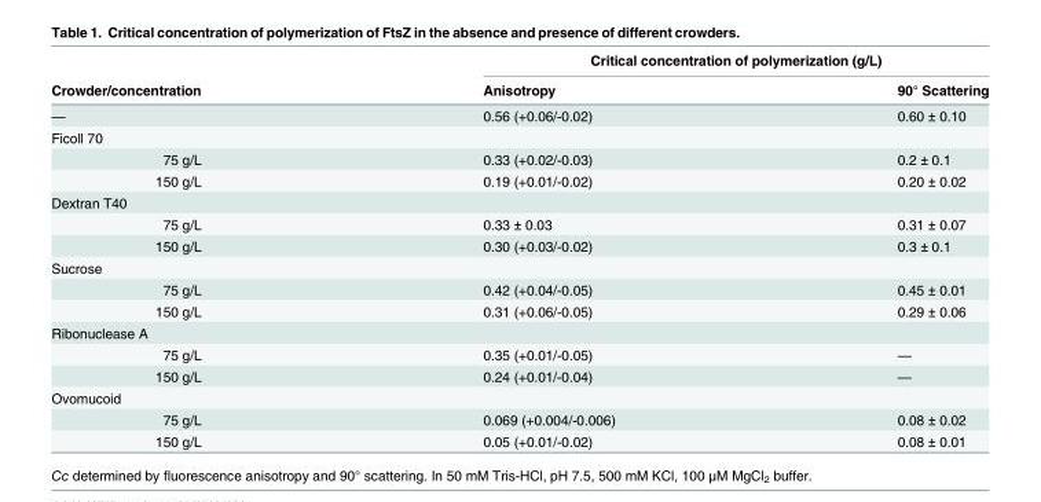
<table><thead><tr><td rowspan="2">Crowder/concentration</td><td colspan="2">Critical concentration of polymerization (g/L)</td></tr><tr><td>Anisotropy</td><td>90° Scattering</td></tr></thead><tbody><tr><td>—</td><td>0.56 (+0.06/-0.02)</td><td>0.60 ± 0.10</td></tr><tr><td colspan="3">Ficoll 70</td></tr><tr><td>75 g/L</td><td>0.33 (+0.02/-0.03)</td><td>0.2 ± 0.1</td></tr><tr><td>150 g/L</td><td>0.19 (+0.01/-0.02)</td><td>0.20 ± 0.02</td></tr><tr><td colspan="3">Dextran T40</td></tr><tr><td>75 g/L</td><td>0.33 ± 0.03</td><td>0.31 ± 0.07</td></tr><tr><td>150 g/L</td><td>0.30 (+0.03/-0.02)</td><td>0.3 ± 0.1</td></tr><tr><td colspan="3">Sucrose</td></tr><tr><td>75 g/L</td><td>0.42 (+0.04/-0.05)</td><td>0.45 ± 0.01</td></tr><tr><td>150 g/L</td><td>0.31 (+0.06/-0.05)</td><td>0.29 ± 0.06</td></tr><tr><td colspan="3">Ribonuclease A</td></tr><tr><td>75 g/L</td><td>0.35 (+0.01/-0.05)</td><td>—</td></tr><tr><td>150 g/L</td><td>0.24 (+0.01/-0.04)</td><td>—</td></tr><tr><td colspan="3">Ovomucoid</td></tr><tr><td>75 g/L</td><td>0.069 (+0.004/-0.006)</td><td>0.08 ± 0.02</td></tr><tr><td>150 g/L</td><td>0.05 (+0.01/-0.02)</td><td>0.08 ± 0.01</td></tr></tbody></table>